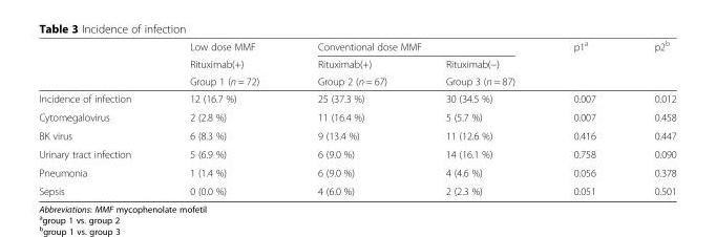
<table><thead><tr><td rowspan="3"></td><td rowspan="3">Low dose MMF Rituximab(+) Group 1 (n = 72)</td><td colspan="2">Conventional dose MMF</td><td rowspan="3">p1<sup>a</sup></td><td rowspan="3">p2<sup>b</sup></td></tr><tr><td rowspan="2">Rituximab(+) Group 2 (n = 67)</td><td rowspan="2">Rituximab(−) Group 3 (n = 87)</td></tr><tr></tr></thead><tbody><tr><td>Incidence of infection</td><td>12 (16.7 %)</td><td>25 (37.3 %)</td><td>30 (34.5 %)</td><td>0.007</td><td>0.012</td></tr><tr><td>Cytomegalovirus</td><td>2 (2.8 %)</td><td>11 (16.4 %)</td><td>5 (5.7 %)</td><td>0.007</td><td>0.458</td></tr><tr><td>BK virus</td><td>6 (8.3 %)</td><td>9 (13.4 %)</td><td>11 (12.6 %)</td><td>0.416</td><td>0.447</td></tr><tr><td>Urinary tract infection</td><td>5 (6.9 %)</td><td>6 (9.0 %)</td><td>14 (16.1 %)</td><td>0.758</td><td>0.090</td></tr><tr><td>Pneumonia</td><td>1 (1.4 %)</td><td>6 (9.0 %)</td><td>4 (4.6 %)</td><td>0.056</td><td>0.378</td></tr><tr><td>Sepsis</td><td>0 (0.0 %)</td><td>4 (6.0 %)</td><td>2 (2.3 %)</td><td>0.051</td><td>0.501</td></tr></tbody></table>